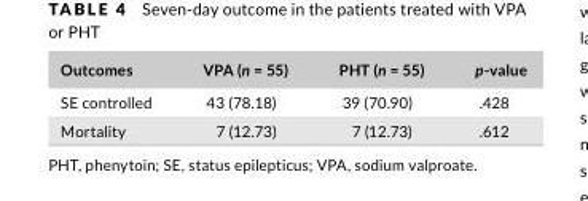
<table><thead><tr><td>Outcomes</td><td>VPA (n = 55)</td><td>PHT (n = 55)</td><td>p- value</td></tr></thead><tbody><tr><td>SE controlled</td><td>43 (78.18)</td><td>39 (70.90)</td><td>.428</td></tr><tr><td>Mortality</td><td>7 (12.73)</td><td>7 (12.73)</td><td>.612</td></tr></tbody></table>